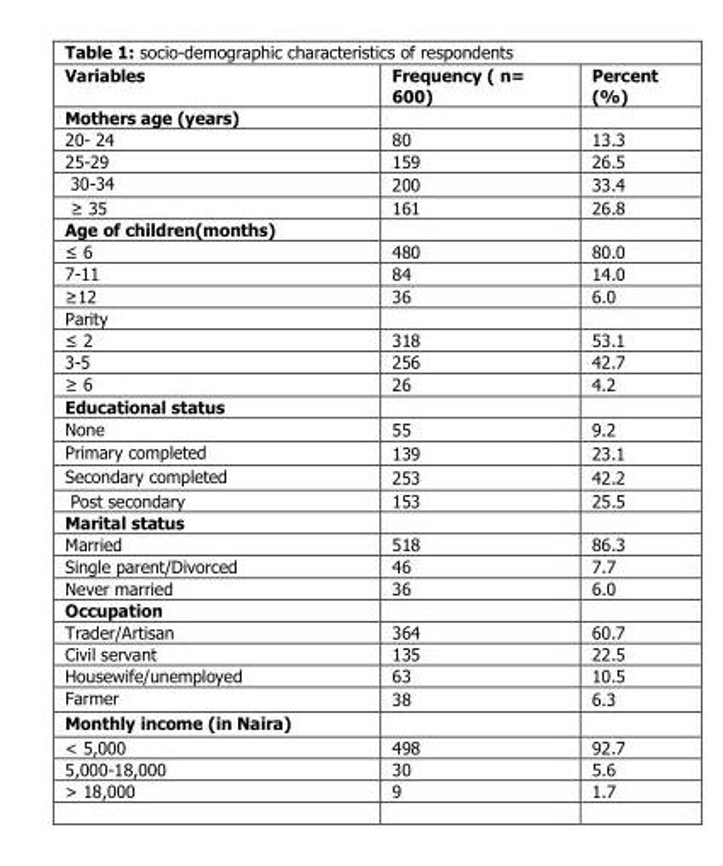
<table><thead><tr><td>Variables</td><td>Frequency ( n= 600)</td><td>Percent (%)</td></tr></thead><tbody><tr><td colspan="3">Mothers age (years)</td></tr><tr><td>20- 24</td><td>80</td><td>13.3</td></tr><tr><td>25-29</td><td>159</td><td>26.5</td></tr><tr><td>30-34</td><td>200</td><td>33.4</td></tr><tr><td>≥ 35</td><td>161</td><td>26.8</td></tr><tr><td colspan="3">Age of children(months)</td></tr><tr><td>≤ 6</td><td>480</td><td>80.0</td></tr><tr><td>7-11</td><td>84</td><td>14.0</td></tr><tr><td>≥12</td><td>36</td><td>6.0</td></tr><tr><td colspan="3">Parity</td></tr><tr><td>≤ 2</td><td>318</td><td>53.1</td></tr><tr><td>3-5</td><td>256</td><td>42.7</td></tr><tr><td>≥ 6</td><td>26</td><td>4.2</td></tr><tr><td colspan="3">Educational status</td></tr><tr><td>None</td><td>55</td><td>9.2</td></tr><tr><td>Primary completed</td><td>139</td><td>23.1</td></tr><tr><td>Secondary completed</td><td>253</td><td>42.2</td></tr><tr><td>Post secondary</td><td>153</td><td>25.5</td></tr><tr><td colspan="3">Marital status</td></tr><tr><td>Married</td><td>518</td><td>86.3</td></tr><tr><td>Single parent/Divorced</td><td>46</td><td>7.7</td></tr><tr><td>Never married</td><td>36</td><td>6.0</td></tr><tr><td colspan="3">Occupation</td></tr><tr><td>Trader/Artisan</td><td>364</td><td>60.7</td></tr><tr><td>Civil servant</td><td>135</td><td>22.5</td></tr><tr><td>Housewife/unemployed</td><td>63</td><td>10.5</td></tr><tr><td>Farmer</td><td>38</td><td>6.3</td></tr><tr><td colspan="3">Monthly income (in Naira)</td></tr><tr><td>&lt; 5,000</td><td>498</td><td>92.7</td></tr><tr><td>5,000-18,000</td><td>30</td><td>5.6</td></tr><tr><td>&gt; 18,000</td><td>9</td><td>1.7</td></tr></tbody></table>